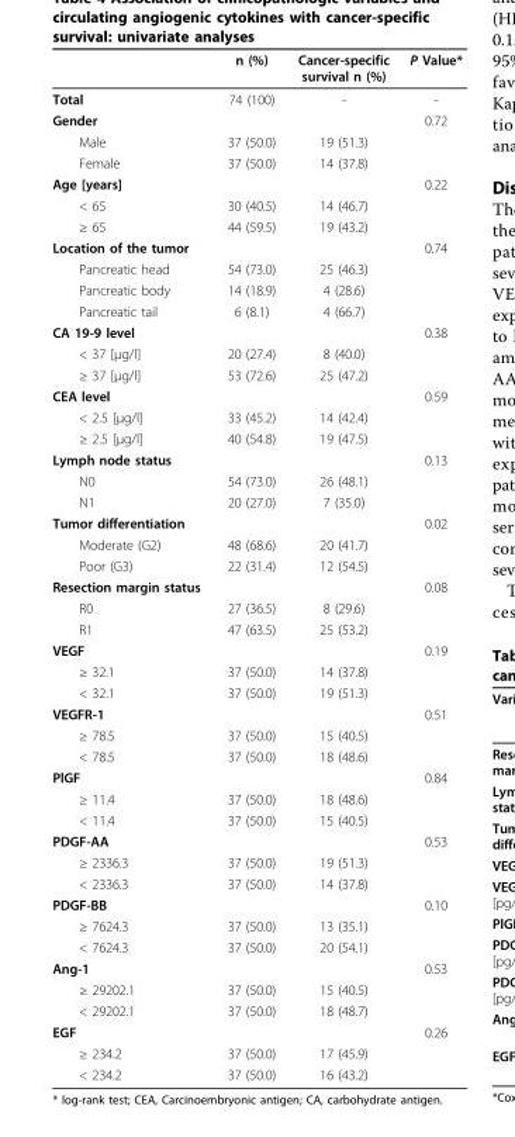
<table><thead><tr><td></td><td>n (%)</td><td>Cancer-specific survival n (%)</td><td>P Value*</td></tr></thead><tbody><tr><td>Total</td><td>74 (100)</td><td>-</td><td>-</td></tr><tr><td>Gender</td><td></td><td></td><td>0.72</td></tr><tr><td>Male</td><td>37 (50.0)</td><td>19 (51.3)</td><td></td></tr><tr><td>Female</td><td>37 (50.0)</td><td>14 (37.8)</td><td></td></tr><tr><td>Age [years]</td><td></td><td></td><td>0.22</td></tr><tr><td>&lt; 65</td><td>30 (40.5)</td><td>14 (46.7)</td><td></td></tr><tr><td>≥ 65</td><td>44 (59.5)</td><td>19 (43.2)</td><td></td></tr><tr><td>Location of the tumor</td><td></td><td></td><td>0.74</td></tr><tr><td>Pancreatic head</td><td>54 (73.0)</td><td>25 (46.3)</td><td></td></tr><tr><td>Pancreatic body</td><td>14 (18.9)</td><td>4 (28.6)</td><td></td></tr><tr><td>Pancreatic tail</td><td>6 (8.1)</td><td>4 (66.7)</td><td></td></tr><tr><td>CA 19-9 level</td><td></td><td></td><td>0.38</td></tr><tr><td>&lt; 37 [μg/l]</td><td>20 (27.4)</td><td>8 (40.0)</td><td></td></tr><tr><td>≥ 37 [μg/l]</td><td>53 (72.6)</td><td>25 (47.2)</td><td></td></tr><tr><td>CEA level</td><td></td><td></td><td>0.59</td></tr><tr><td>&lt; 2.5 [μg/l]</td><td>33 (45.2)</td><td>14 (42.4)</td><td></td></tr><tr><td>≥ 2.5 [μg/l]</td><td>40 (54.8)</td><td>19 (47.5)</td><td></td></tr><tr><td>Lymph node status</td><td></td><td></td><td>0.13</td></tr><tr><td>N0</td><td>54 (73.0)</td><td>26 (48.1)</td><td></td></tr><tr><td>N1</td><td>20 (27.0)</td><td>7 (35.0)</td><td></td></tr><tr><td>Tumor differentiation</td><td></td><td></td><td>0.02</td></tr><tr><td>Moderate (G2)</td><td>48 (68.6)</td><td>20 (41.7)</td><td></td></tr><tr><td>Poor (G3)</td><td>22 (31.4)</td><td>12 (54.5)</td><td></td></tr><tr><td>Resection margin status</td><td></td><td></td><td>0.08</td></tr><tr><td>R0</td><td>27 (36.5)</td><td>8 (29.6)</td><td></td></tr><tr><td>R1</td><td>47 (63.5)</td><td>25 (53.2)</td><td></td></tr><tr><td>VEGF</td><td></td><td></td><td>0.19</td></tr><tr><td>≥ 32.1</td><td>37 (50.0)</td><td>14 (37.8)</td><td></td></tr><tr><td>&lt; 32.1</td><td>37 (50.0)</td><td>19 (51.3)</td><td></td></tr><tr><td>VEGFR-1</td><td></td><td></td><td>0.51</td></tr><tr><td>≥ 78.5</td><td>37 (50.0)</td><td>15 (40.5)</td><td></td></tr><tr><td>&lt; 78.5</td><td>37 (50.0)</td><td>18 (48.6)</td><td></td></tr><tr><td>PlGF</td><td></td><td></td><td>0.84</td></tr><tr><td>≥ 11.4</td><td>37 (50.0)</td><td>18 (48.6)</td><td></td></tr><tr><td>&lt; 11.4</td><td>37 (50.0)</td><td>15 (40.5)</td><td></td></tr><tr><td>PDGF-AA</td><td></td><td></td><td>0.53</td></tr><tr><td>≥ 2336.3</td><td>37 (50.0)</td><td>19 (51.3)</td><td></td></tr><tr><td>&lt; 2336.3</td><td>37 (50.0)</td><td>14 (37.8)</td><td></td></tr><tr><td>PDGF-BB</td><td></td><td></td><td>0.10</td></tr><tr><td>≥ 7624.3</td><td>37 (50.0)</td><td>13 (35.1)</td><td></td></tr><tr><td>&lt; 7624.3</td><td>37 (50.0)</td><td>20 (54.1)</td><td></td></tr><tr><td>Ang-1</td><td></td><td></td><td>0.53</td></tr><tr><td>≥ 29202.1</td><td>37 (50.0)</td><td>15 (40.5)</td><td></td></tr><tr><td>&lt; 29202.1</td><td>37 (50.0)</td><td>18 (48.7)</td><td></td></tr><tr><td>EGF</td><td></td><td></td><td>0.26</td></tr><tr><td>≥ 234.2</td><td>37 (50.0)</td><td>17 (45.9)</td><td></td></tr><tr><td>&lt; 234.2</td><td>37 (50.0)</td><td>16 (43.2)</td><td></td></tr></tbody></table>